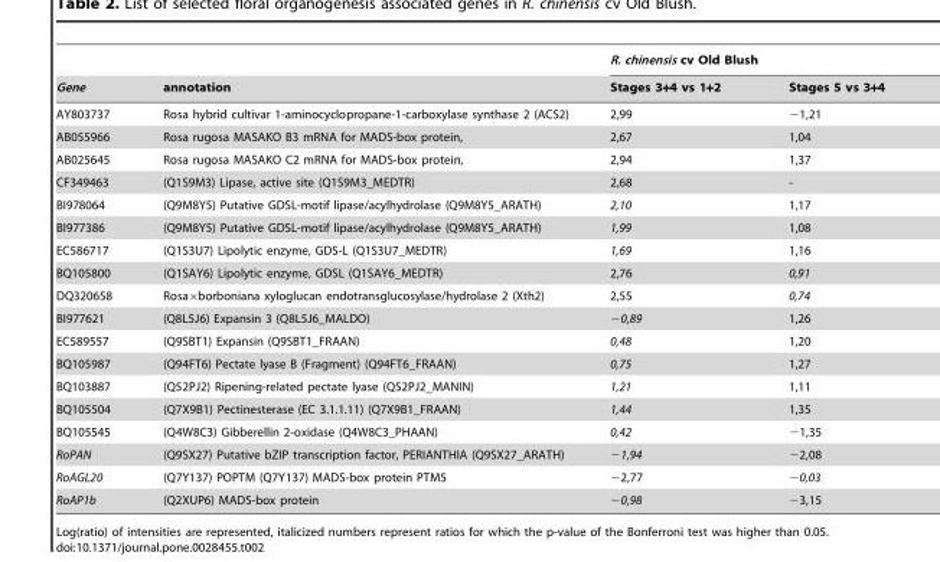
<table><thead><tr><td rowspan="2">Gene</td><td rowspan="2">annotation</td><td colspan="2">R. chinensis cv Old Blush</td></tr><tr><td>Stages 3+4 vs 1+2</td><td>Stages 5 vs 3+4</td></tr></thead><tbody><tr><td>AY803737</td><td>Rosa hybrid cultivar 1-aminocyclopropane-1-carboxylase synthase 2 (ACS2)</td><td>2,99</td><td>−1,21</td></tr><tr><td>AB055966</td><td>Rosa rugosa MASAKO B3 mRNA for MADS-box protein,</td><td>2,67</td><td>1,04</td></tr><tr><td>AB025645</td><td>Rosa rugosa MASAKO C2 mRNA for MADS-box protein,</td><td>2,94</td><td>1,37</td></tr><tr><td>CF349463</td><td>(Q1S9M3) Lipase, active site (Q1S9M3_MEDTR)</td><td>2,68</td><td>-</td></tr><tr><td>BI978064</td><td>(Q9M8Y5) Putative GDSL-motif lipase/acylhydrolase (Q9M8Y5_ARATH)</td><td>2,10</td><td>1,17</td></tr><tr><td>BI977386</td><td>(Q9M8Y5) Putative GDSL-motif lipase/acylhydrolase (Q9M8Y5_ARATH)</td><td>1,99</td><td>1,08</td></tr><tr><td>EC586717</td><td>(Q1S3U7) Lipolytic enzyme, GDS-L (Q1S3U7_MEDTR)</td><td>1,69</td><td>1,16</td></tr><tr><td>BQ105800</td><td>(Q1SAY6) Lipolytic enzyme, GDSL (Q1SAY6_MEDTR)</td><td>2,76</td><td>0,91</td></tr><tr><td>DQ320658</td><td>Rosa×borboniana xyloglucan endotransglucosylase/hydrolase 2 (Xth2)</td><td>2,55</td><td>0,74</td></tr><tr><td>BI977621</td><td>(Q8L5J6) Expansin 3 (Q8L5J6_MALDO)</td><td>−0,89</td><td>1,26</td></tr><tr><td>EC589557</td><td>(Q9SBT1) Expansin (Q9SBT1_FRAAN)</td><td>0,48</td><td>1,20</td></tr><tr><td>BQ105987</td><td>(Q94FT6) Pectate lyase B (Fragment) (Q94FT6_FRAAN)</td><td>0,75</td><td>1,27</td></tr><tr><td>BQ103887</td><td>(Q52PJ2) Ripening-related pectate lyase (Q52PJ2_MANIN)</td><td>1,21</td><td>1,11</td></tr><tr><td>BQ105504</td><td>(Q7X9B1) Pectinesterase (EC 3.1.1.11) (Q7X9B1_FRAAN)</td><td>1,44</td><td>1,35</td></tr><tr><td>BQ105545</td><td>(Q4W8C3) Gibberellin 2-oxidase (Q4W8C3_PHAAN)</td><td>0,42</td><td>−1,35</td></tr><tr><td>RoPAN</td><td>(Q9SX27) Putative bZIP transcription factor, PERIANTHIA (Q9SX27_ARATH)</td><td>−1,94</td><td>−2,08</td></tr><tr><td>RoAGL20</td><td>(Q7Y137) POPTM (Q7Y137) MADS-box protein PTM5</td><td>−2,77</td><td>−0,03</td></tr><tr><td>RoAP1b</td><td>(Q2XUP6) MADS-box protein</td><td>−0,98</td><td>−3,15</td></tr></tbody></table>